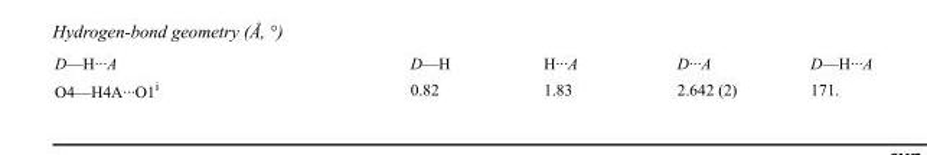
<table><tbody><tr><td>D—H···A</td><td>D—H</td><td>H···A</td><td>D···A</td><td>D—H···A</td></tr><tr><td>O4—H4A···O1<sup>i</sup></td><td>0.82</td><td>1.83</td><td>2.642 (2)</td><td>171.</td></tr></tbody></table>